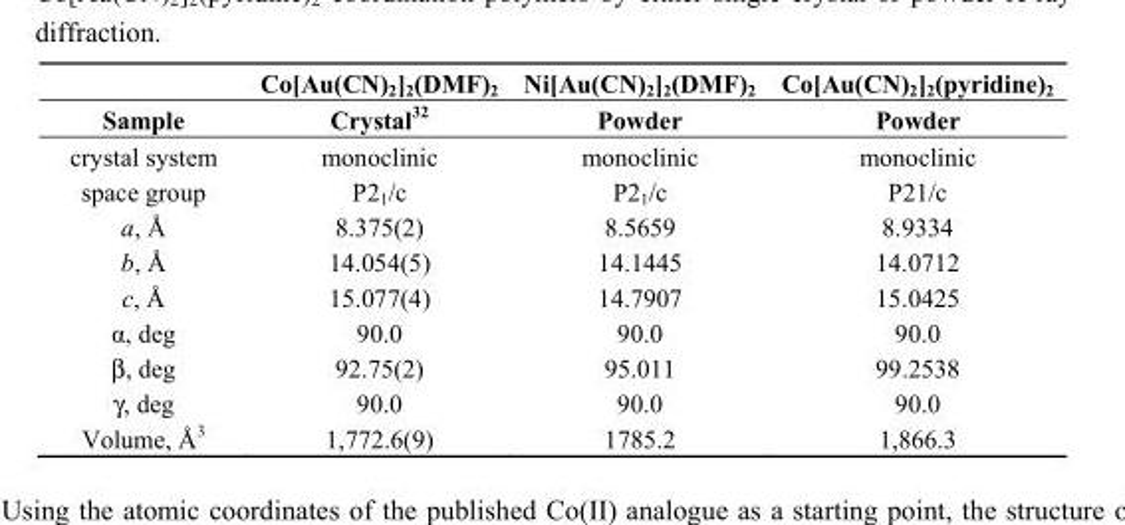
<table><thead><tr><td rowspan="2">Sample</td><td rowspan="2">Co[Au(CN)2]2(DMF)2 Crystal32</td><td rowspan="2">Ni[Au(CN)2]2(DMF)2 Powder</td><td rowspan="2">Co[Au(CN)2]2(pyridine)2 Powder</td></tr><tr></tr></thead><tbody><tr><td>crystal system</td><td>monoclinic</td><td>monoclinic</td><td>monoclinic</td></tr><tr><td>space group</td><td>P2<sub>1</sub>/c</td><td>P2<sub>1</sub>/c</td><td>P21/c</td></tr><tr><td>a, Å</td><td>8.375(2)</td><td>8.5659</td><td>8.9334</td></tr><tr><td>b, Å</td><td>14.054(5)</td><td>14.1445</td><td>14.0712</td></tr><tr><td>c, Å</td><td>15.077(4)</td><td>14.7907</td><td>15.0425</td></tr><tr><td>α, deg</td><td>90.0</td><td>90.0</td><td>90.0</td></tr><tr><td>β, deg</td><td>92.75(2)</td><td>95.011</td><td>99.2538</td></tr><tr><td>γ, deg</td><td>90.0</td><td>90.0</td><td>90.0</td></tr><tr><td>Volume, Å<sup>3</sup></td><td>1,772.6(9)</td><td>1785.2</td><td>1,866.3</td></tr></tbody></table>